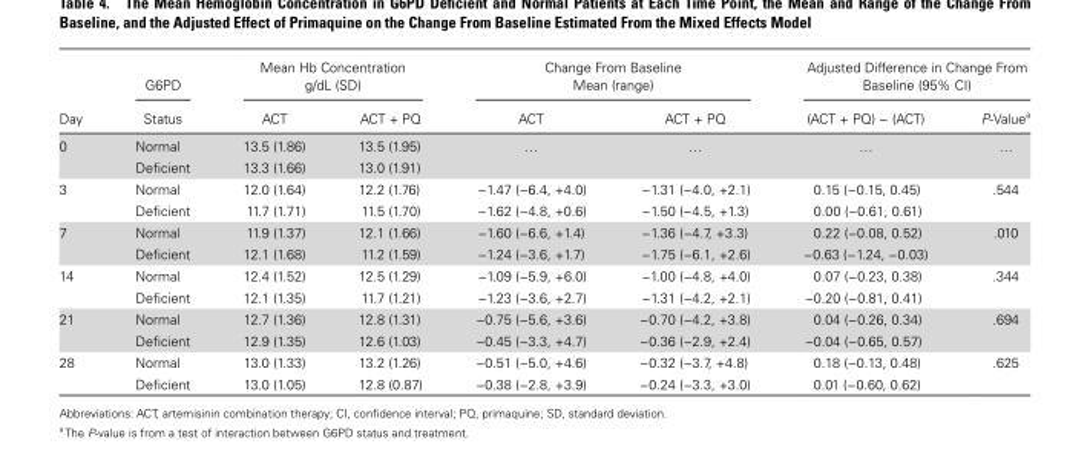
<table><thead><tr><td rowspan="2">Day</td><td rowspan="2">G6PD Status</td><td colspan="2">Mean Hb Concentration g/dL (SD)</td><td colspan="2">Change From Baseline Mean (range)</td><td colspan="2">Adjusted Difference in Change From Baseline (95% CI)</td></tr><tr><td>ACT</td><td>ACT + PQ</td><td>ACT</td><td>ACT + PQ</td><td>(ACT + PQ) − (ACT)</td><td>P-Value<sup>a</sup></td></tr></thead><tbody><tr><td rowspan="2">0</td><td>Normal</td><td>13.5 (1.86)</td><td>13.5 (1.95)</td><td rowspan="2">…</td><td rowspan="2">…</td><td rowspan="2">…</td><td rowspan="2">…</td></tr><tr><td>Deficient</td><td>13.3 (1.66)</td><td>13.0 (1.91)</td></tr><tr><td rowspan="2">3</td><td>Normal</td><td>12.0 (1.64)</td><td>12.2 (1.76)</td><td>−1.47 (−6.4, +4.0)</td><td>−1.31 (−4.0, +2.1)</td><td>0.15 (−0.15, 0.45)</td><td rowspan="2">.544</td></tr><tr><td>Deficient</td><td>11.7 (1.71)</td><td>11.5 (1.70)</td><td>−1.62 (−4.8, +0.6)</td><td>−1.50 (−4.5, +1.3)</td><td>0.00 (−0.61, 0.61)</td></tr><tr><td rowspan="2">7</td><td>Normal</td><td>11.9 (1.37)</td><td>12.1 (1.66)</td><td>−1.60 (−6.6, +1.4)</td><td>−1.36 (−4.7, +3.3)</td><td>0.22 (−0.08, 0.52)</td><td rowspan="2">.010</td></tr><tr><td>Deficient</td><td>12.1 (1.68)</td><td>11.2 (1.59)</td><td>−1.24 (−3.6, +1.7)</td><td>−1.75 (−6.1, +2.6)</td><td>−0.63 (−1.24, −0.03)</td></tr><tr><td rowspan="2">14</td><td>Normal</td><td>12.4 (1.52)</td><td>12.5 (1.29)</td><td>−1.09 (−5.9, +6.0)</td><td>−1.00 (−4.8, +4.0)</td><td>0.07 (−0.23, 0.38)</td><td rowspan="2">.344</td></tr><tr><td>Deficient</td><td>12.1 (1.35)</td><td>11.7 (1.21)</td><td>−1.23 (−3.6, +2.7)</td><td>−1.31 (−4.2, +2.1)</td><td>−0.20 (−0.81, 0.41)</td></tr><tr><td rowspan="2">21</td><td>Normal</td><td>12.7 (1.36)</td><td>12.8 (1.31)</td><td>−0.75 (−5.6, +3.6)</td><td>−0.70 (−4.2, +3.8)</td><td>0.04 (−0.26, 0.34)</td><td rowspan="2">.694</td></tr><tr><td>Deficient</td><td>12.9 (1.35)</td><td>12.6 (1.03)</td><td>−0.45 (−3.3, +4.7)</td><td>−0.36 (−2.9, +2.4)</td><td>−0.04 (−0.65, 0.57)</td></tr><tr><td rowspan="2">28</td><td>Normal</td><td>13.0 (1.33)</td><td>13.2 (1.26)</td><td>−0.51 (−5.0, +4.6)</td><td>−0.32 (−3.7, +4.8)</td><td>0.18 (−0.13, 0.48)</td><td rowspan="2">.625</td></tr><tr><td>Deficient</td><td>13.0 (1.05)</td><td>12.8 (0.87)</td><td>−0.38 (−2.8, +3.9)</td><td>−0.24 (−3.3, +3.0)</td><td>0.01 (−0.60, 0.62)</td></tr></tbody></table>